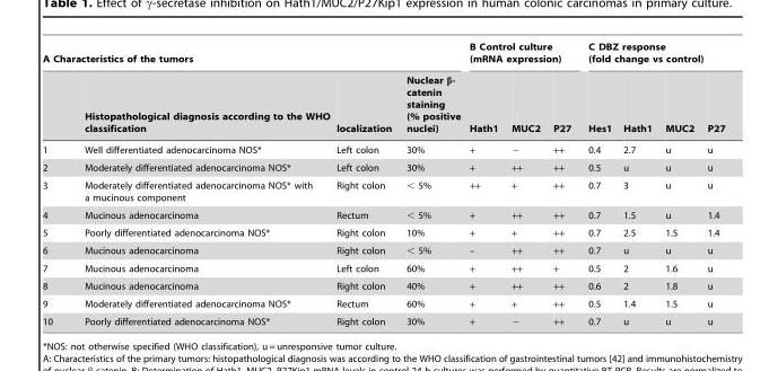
<table><thead><tr><td colspan="4">A Characteristics of the tumors</td><td colspan="3">B Control culture (mRNA expression)</td><td colspan="4">C DBZ response (fold change vs control)</td></tr><tr><td></td><td>Histopathological diagnosis according to the WHO classification</td><td>localization</td><td>Nuclear β- catenin staining (% positive nuclei)</td><td>Hath1</td><td>MUC2</td><td>P27</td><td>Hes1</td><td>Hath1</td><td>MUC2</td><td>P27</td></tr></thead><tbody><tr><td>1</td><td>Well differentiated adenocarcinoma NOS*</td><td>Left colon</td><td>30%</td><td>+</td><td>−</td><td>++</td><td>0.4</td><td>2.7</td><td>u</td><td>u</td></tr><tr><td>2</td><td>Moderately differentiated adenocarcinoma NOS*</td><td>Left colon</td><td>30%</td><td>+</td><td>++</td><td>++</td><td>0.5</td><td>u</td><td>u</td><td>u</td></tr><tr><td>3</td><td>Moderately differentiated adenocarcinoma NOS* with a mucinous component</td><td>Right colon</td><td>&lt; 5%</td><td>++</td><td>+</td><td>++</td><td>0.7</td><td>3</td><td>u</td><td>u</td></tr><tr><td>4</td><td>Mucinous adenocarcinoma</td><td>Rectum</td><td>&lt; 5%</td><td>+</td><td>++</td><td>++</td><td>0.7</td><td>1.5</td><td>u</td><td>1.4</td></tr><tr><td>5</td><td>Poorly differentiated adenocarcinoma NOS*</td><td>Right colon</td><td>10%</td><td>+</td><td>+</td><td>++</td><td>0.7</td><td>2.5</td><td>1.5</td><td>1.4</td></tr><tr><td>6</td><td>Mucinous adenocarcinoma</td><td>Right colon</td><td>&lt; 5%</td><td>–</td><td>++</td><td>++</td><td>0.7</td><td>u</td><td>u</td><td>u</td></tr><tr><td>7</td><td>Mucinous adenocarcinoma</td><td>Left colon</td><td>60%</td><td>+</td><td>++</td><td>+</td><td>0.5</td><td>2</td><td>1.6</td><td>u</td></tr><tr><td>8</td><td>Mucinous adenocarcinoma</td><td>Right colon</td><td>40%</td><td>+</td><td>++</td><td>++</td><td>0.6</td><td>2</td><td>1.8</td><td>u</td></tr><tr><td>9</td><td>Moderately differentiated adenocarcinoma NOS*</td><td>Rectum</td><td>60%</td><td>+</td><td>+</td><td>++</td><td>0.5</td><td>1.4</td><td>1.5</td><td>u</td></tr><tr><td>10</td><td>Poorly differentiated adenocarcinoma NOS*</td><td>Right colon</td><td>30%</td><td>+</td><td>−</td><td>++</td><td>0.7</td><td>u</td><td>u</td><td>u</td></tr></tbody></table>